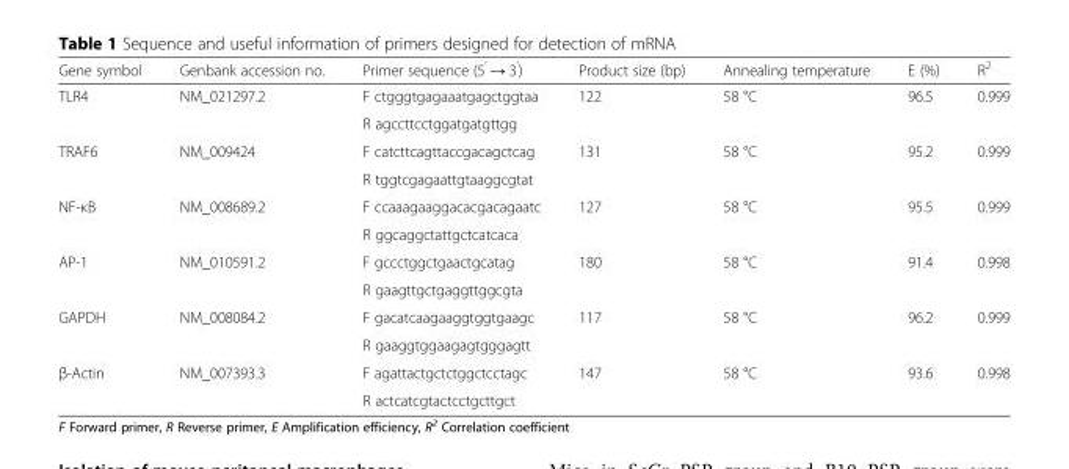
<table><thead><tr><td>Gene symbol</td><td>Genbank accession no.</td><td>Primer sequence (5<sup>’</sup> → 3<sup>’</sup>)</td><td>Product size (bp)</td><td>Annealing temperature</td><td>E (%)</td><td>R<sup>2</sup></td></tr></thead><tbody><tr><td rowspan="2">TLR4</td><td rowspan="2">NM_021297.2</td><td>F ctgggtgagaaatgagctggtaa</td><td rowspan="2">122</td><td rowspan="2">58 °C</td><td rowspan="2">96.5</td><td rowspan="2">0.999</td></tr><tr><td>R agccttcctggatgatgttgg</td></tr><tr><td rowspan="2">TRAF6</td><td rowspan="2">NM_009424</td><td>F catcttcagttaccgacagctcag</td><td rowspan="2">131</td><td rowspan="2">58 °C</td><td rowspan="2">95.2</td><td rowspan="2">0.999</td></tr><tr><td>R tggtcgagaattgtaaggcgtat</td></tr><tr><td rowspan="2">NF-κB</td><td rowspan="2">NM_008689.2</td><td>F ccaaagaaggacacgacagaatc</td><td rowspan="2">127</td><td rowspan="2">58 °C</td><td rowspan="2">95.5</td><td rowspan="2">0.999</td></tr><tr><td>R ggcaggctattgctcatcaca</td></tr><tr><td rowspan="2">AP-1</td><td rowspan="2">NM_010591.2</td><td>F gccctggctgaactgcatag</td><td rowspan="2">180</td><td rowspan="2">58 °C</td><td rowspan="2">91.4</td><td rowspan="2">0.998</td></tr><tr><td>R gaagttgctgaggttggcgta</td></tr><tr><td rowspan="2">GAPDH</td><td rowspan="2">NM_008084.2</td><td>F gacatcaagaaggtggtgaagc</td><td rowspan="2">117</td><td rowspan="2">58 °C</td><td rowspan="2">96.2</td><td rowspan="2">0.999</td></tr><tr><td>R gaaggtggaagagtgggagtt</td></tr><tr><td rowspan="2">β-Actin</td><td rowspan="2">NM_007393.3</td><td>F agattactgctctggctcctagc</td><td rowspan="2">147</td><td rowspan="2">58 °C</td><td rowspan="2">93.6</td><td rowspan="2">0.998</td></tr><tr><td>R actcatcgtactcctgcttgct</td></tr></tbody></table>